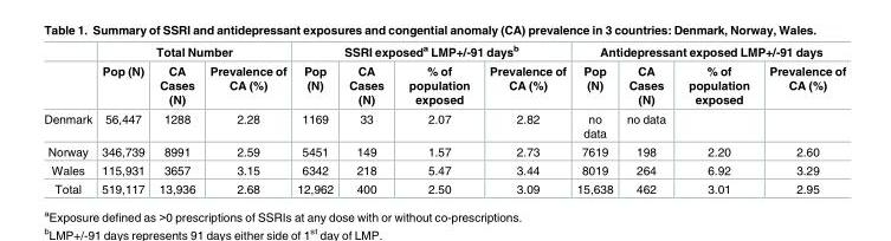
<table><thead><tr><td rowspan="2"></td><td colspan="3">Total Number</td><td colspan="4">SSRI exposed<sup>a</sup> LMP+/-91 days<sup>b</sup></td><td colspan="4">Antidepressant exposed LMP+/-91 days</td></tr><tr><td>Pop (N)</td><td>CA Cases (N)</td><td>Prevalence of CA (%)</td><td>Pop (N)</td><td>CA Cases (N)</td><td>% of population exposed</td><td>Prevalence of CA (%)</td><td>Pop (N)</td><td>CA Cases (N)</td><td>% of population exposed</td><td>Prevalence of CA (%)</td></tr></thead><tbody><tr><td>Denmark</td><td>56,447</td><td>1288</td><td>2.28</td><td>1169</td><td>33</td><td>2.07</td><td>2.82</td><td>no data</td><td>no data</td><td></td><td></td></tr><tr><td>Norway</td><td>346,739</td><td>8991</td><td>2.59</td><td>5451</td><td>149</td><td>1.57</td><td>2.73</td><td>7619</td><td>198</td><td>2.20</td><td>2.60</td></tr><tr><td>Wales</td><td>115,931</td><td>3657</td><td>3.15</td><td>6342</td><td>218</td><td>5.47</td><td>3.44</td><td>8019</td><td>264</td><td>6.92</td><td>3.29</td></tr><tr><td>Total</td><td>519,117</td><td>13,936</td><td>2.68</td><td>12,962</td><td>400</td><td>2.50</td><td>3.09</td><td>15,638</td><td>462</td><td>3.01</td><td>2.95</td></tr></tbody></table>